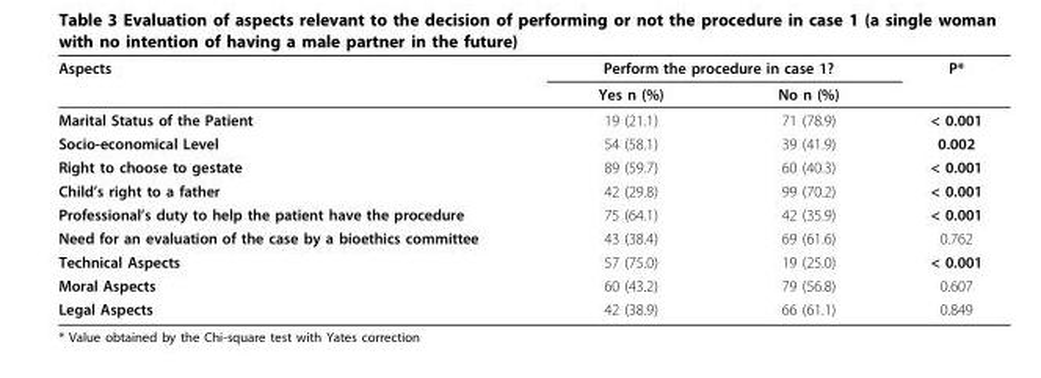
<table><thead><tr><td rowspan="2">Aspects</td><td colspan="2">Perform the procedure in case 1?</td><td rowspan="2">P*</td></tr><tr><td>Yes n (%)</td><td>No n (%)</td></tr></thead><tbody><tr><td>Marital Status of the Patient</td><td>19 (21.1)</td><td>71 (78.9)</td><td>&lt; 0.001</td></tr><tr><td>Socio-economical Level</td><td>54 (58.1)</td><td>39 (41.9)</td><td>0.002</td></tr><tr><td>Right to choose to gestate</td><td>89 (59.7)</td><td>60 (40.3)</td><td>&lt; 0.001</td></tr><tr><td>Child’s right to a father</td><td>42 (29.8)</td><td>99 (70.2)</td><td>&lt; 0.001</td></tr><tr><td>Professional’s duty to help the patient have the procedure</td><td>75 (64.1)</td><td>42 (35.9)</td><td>&lt; 0.001</td></tr><tr><td>Need for an evaluation of the case by a bioethics committee</td><td>43 (38.4)</td><td>69 (61.6)</td><td>0.762</td></tr><tr><td>Technical Aspects</td><td>57 (75.0)</td><td>19 (25.0)</td><td>&lt; 0.001</td></tr><tr><td>Moral Aspects</td><td>60 (43.2)</td><td>79 (56.8)</td><td>0.607</td></tr><tr><td>Legal Aspects</td><td>42 (38.9)</td><td>66 (61.1)</td><td>0.849</td></tr></tbody></table>